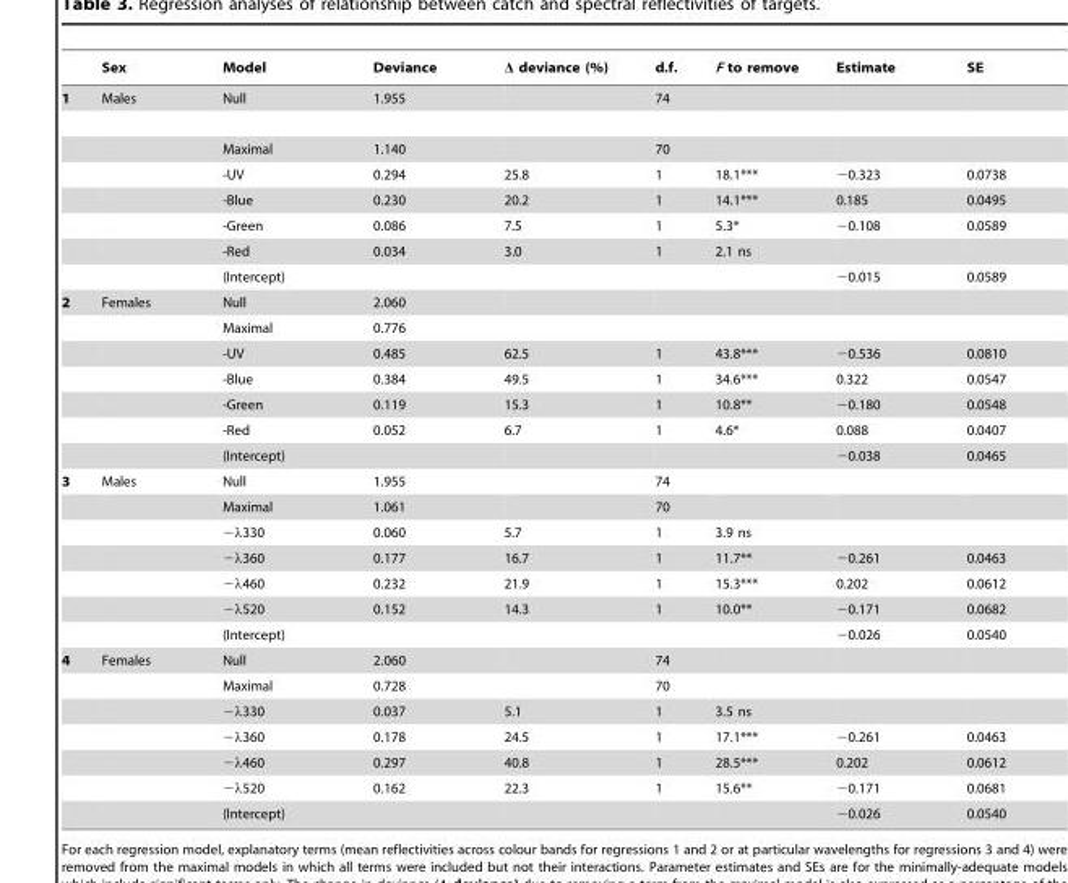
<table><thead><tr><td></td><td>Sex</td><td>Model</td><td>Deviance</td><td>Δ deviance (%)</td><td>d.f.</td><td>F to remove</td><td>Estimate</td><td>SE</td></tr></thead><tbody><tr><td rowspan="7">1</td><td>Males</td><td>Null</td><td>1.955</td><td></td><td>74</td><td></td><td></td><td></td></tr><tr><td></td><td>Maximal</td><td>1.140</td><td></td><td>70</td><td></td><td></td><td></td></tr><tr><td></td><td>-UV</td><td>0.294</td><td>25.8</td><td>1</td><td>18.1***</td><td>−0.323</td><td>0.0738</td></tr><tr><td></td><td>-Blue</td><td>0.230</td><td>20.2</td><td>1</td><td>14.1***</td><td>0.185</td><td>0.0495</td></tr><tr><td></td><td>-Green</td><td>0.086</td><td>7.5</td><td>1</td><td>5.3*</td><td>−0.108</td><td>0.0589</td></tr><tr><td></td><td>-Red</td><td>0.034</td><td>3.0</td><td>1</td><td>2.1 ns</td><td></td><td></td></tr><tr><td></td><td>(Intercept)</td><td></td><td></td><td></td><td></td><td>−0.015</td><td>0.0589</td></tr><tr><td rowspan="7">2</td><td>Females</td><td>Null</td><td>2.060</td><td></td><td></td><td></td><td></td><td></td></tr><tr><td></td><td>Maximal</td><td>0.776</td><td></td><td></td><td></td><td></td><td></td></tr><tr><td></td><td>-UV</td><td>0.485</td><td>62.5</td><td>1</td><td>43.8***</td><td>−0.536</td><td>0.0810</td></tr><tr><td></td><td>-Blue</td><td>0.384</td><td>49.5</td><td>1</td><td>34.6***</td><td>0.322</td><td>0.0547</td></tr><tr><td></td><td>-Green</td><td>0.119</td><td>15.3</td><td>1</td><td>10.8**</td><td>−0.180</td><td>0.0548</td></tr><tr><td></td><td>-Red</td><td>0.052</td><td>6.7</td><td>1</td><td>4.6*</td><td>0.088</td><td>0.0407</td></tr><tr><td></td><td>(Intercept)</td><td></td><td></td><td></td><td></td><td>−0.038</td><td>0.0465</td></tr><tr><td rowspan="7">3</td><td>Males</td><td>Null</td><td>1.955</td><td></td><td>74</td><td></td><td></td><td></td></tr><tr><td></td><td>Maximal</td><td>1.061</td><td></td><td>70</td><td></td><td></td><td></td></tr><tr><td></td><td>−λ330</td><td>0.060</td><td>5.7</td><td>1</td><td>3.9 ns</td><td></td><td></td></tr><tr><td></td><td>−λ360</td><td>0.177</td><td>16.7</td><td>1</td><td>11.7**</td><td>−0.261</td><td>0.0463</td></tr><tr><td></td><td>−λ460</td><td>0.232</td><td>21.9</td><td>1</td><td>15.3***</td><td>0.202</td><td>0.0612</td></tr><tr><td></td><td>−λ520</td><td>0.152</td><td>14.3</td><td>1</td><td>10.0**</td><td>−0.171</td><td>0.0682</td></tr><tr><td></td><td>(Intercept)</td><td></td><td></td><td></td><td></td><td>−0.026</td><td>0.0540</td></tr><tr><td rowspan="7">4</td><td>Females</td><td>Null</td><td>2.060</td><td></td><td>74</td><td></td><td></td><td></td></tr><tr><td></td><td>Maximal</td><td>0.728</td><td></td><td>70</td><td></td><td></td><td></td></tr><tr><td></td><td>−λ330</td><td>0.037</td><td>5.1</td><td>1</td><td>3.5 ns</td><td></td><td></td></tr><tr><td></td><td>−λ360</td><td>0.178</td><td>24.5</td><td>1</td><td>17.1***</td><td>−0.261</td><td>0.0463</td></tr><tr><td></td><td>−λ460</td><td>0.297</td><td>40.8</td><td>1</td><td>28.5***</td><td>0.202</td><td>0.0612</td></tr><tr><td></td><td>−λ520</td><td>0.162</td><td>22.3</td><td>1</td><td>15.6**</td><td>−0.171</td><td>0.0681</td></tr><tr><td></td><td>(Intercept)</td><td></td><td></td><td></td><td></td><td>−0.026</td><td>0.0540</td></tr></tbody></table>